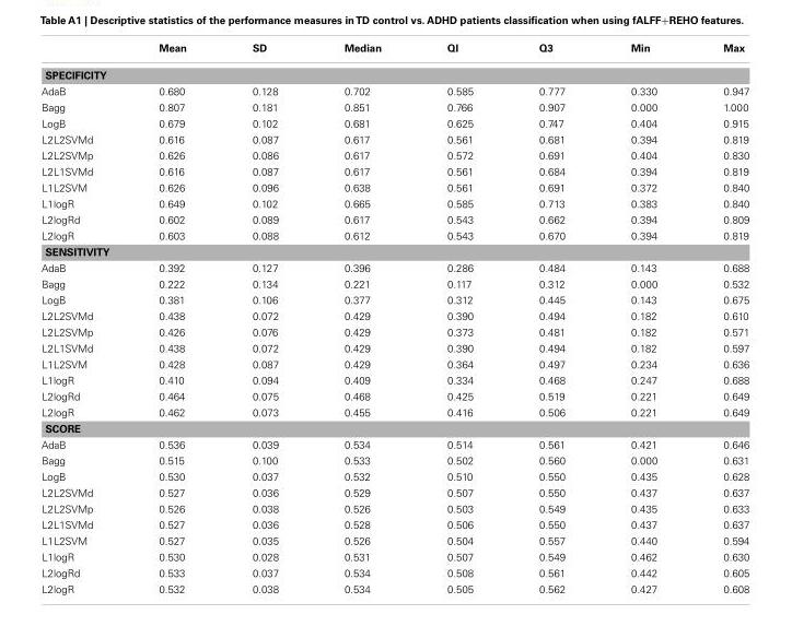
<table><thead><tr><td></td><td>Mean</td><td>SD</td><td>Median</td><td>Ql</td><td>Q3</td><td>Min</td><td>Max</td></tr></thead><tbody><tr><td colspan="8">SPECIFICITY</td></tr><tr><td>AdaB</td><td>0.680</td><td>0.128</td><td>0.702</td><td>0.585</td><td>0.777</td><td>0.330</td><td>0.947</td></tr><tr><td>Bagg</td><td>0.807</td><td>0.181</td><td>0.851</td><td>0.766</td><td>0.907</td><td>0.000</td><td>1.000</td></tr><tr><td>LogB</td><td>0.679</td><td>0.102</td><td>0.681</td><td>0.625</td><td>0.747</td><td>0.404</td><td>0.915</td></tr><tr><td>L2L2SVMd</td><td>0.616</td><td>0.087</td><td>0.617</td><td>0.561</td><td>0.681</td><td>0.394</td><td>0.819</td></tr><tr><td>L2L2SVMp</td><td>0.626</td><td>0.086</td><td>0.617</td><td>0.572</td><td>0.691</td><td>0.404</td><td>0.830</td></tr><tr><td>L2L1SVMd</td><td>0.616</td><td>0.087</td><td>0.617</td><td>0.561</td><td>0.684</td><td>0.394</td><td>0.819</td></tr><tr><td>L1L2SVM</td><td>0.626</td><td>0.096</td><td>0.638</td><td>0.561</td><td>0.691</td><td>0.372</td><td>0.840</td></tr><tr><td>L1logR</td><td>0.649</td><td>0.102</td><td>0.665</td><td>0.585</td><td>0.713</td><td>0.383</td><td>0.840</td></tr><tr><td>L2logRd</td><td>0.602</td><td>0.089</td><td>0.617</td><td>0.543</td><td>0.662</td><td>0.394</td><td>0.809</td></tr><tr><td>L2logR</td><td>0.603</td><td>0.088</td><td>0.612</td><td>0.543</td><td>0.670</td><td>0.394</td><td>0.819</td></tr><tr><td colspan="8">SENSITIVITY</td></tr><tr><td>AdaB</td><td>0.392</td><td>0.127</td><td>0.396</td><td>0.286</td><td>0.484</td><td>0.143</td><td>0.688</td></tr><tr><td>Bagg</td><td>0.222</td><td>0.134</td><td>0.221</td><td>0.117</td><td>0.312</td><td>0.000</td><td>0.532</td></tr><tr><td>LogB</td><td>0.381</td><td>0.106</td><td>0.377</td><td>0.312</td><td>0.445</td><td>0.143</td><td>0.675</td></tr><tr><td>L2L2SVMd</td><td>0.438</td><td>0.072</td><td>0.429</td><td>0.390</td><td>0.494</td><td>0.182</td><td>0.610</td></tr><tr><td>L2L2SVMp</td><td>0.426</td><td>0.076</td><td>0.429</td><td>0.373</td><td>0.481</td><td>0.182</td><td>0.571</td></tr><tr><td>L2L1SVMd</td><td>0.438</td><td>0.072</td><td>0.429</td><td>0.390</td><td>0.494</td><td>0.182</td><td>0.597</td></tr><tr><td>L1L2SVM</td><td>0.428</td><td>0.087</td><td>0.429</td><td>0.364</td><td>0.497</td><td>0.234</td><td>0.636</td></tr><tr><td>L1logR</td><td>0.410</td><td>0.094</td><td>0.409</td><td>0.334</td><td>0.468</td><td>0.247</td><td>0.688</td></tr><tr><td>L2logRd</td><td>0.464</td><td>0.075</td><td>0.468</td><td>0.425</td><td>0.519</td><td>0.221</td><td>0.649</td></tr><tr><td>L2logR</td><td>0.462</td><td>0.073</td><td>0.455</td><td>0.416</td><td>0.506</td><td>0.221</td><td>0.649</td></tr><tr><td colspan="8">SCORE</td></tr><tr><td>AdaB</td><td>0.536</td><td>0.039</td><td>0.534</td><td>0.514</td><td>0.561</td><td>0.421</td><td>0.646</td></tr><tr><td>Bagg</td><td>0.515</td><td>0.100</td><td>0.533</td><td>0.502</td><td>0.560</td><td>0.000</td><td>0.631</td></tr><tr><td>LogB</td><td>0.530</td><td>0.037</td><td>0.532</td><td>0.510</td><td>0.550</td><td>0.435</td><td>0.628</td></tr><tr><td>L2L2SVMd</td><td>0.527</td><td>0.036</td><td>0.529</td><td>0.507</td><td>0.550</td><td>0.437</td><td>0.637</td></tr><tr><td>L2L2SVMp</td><td>0.526</td><td>0.038</td><td>0.526</td><td>0.503</td><td>0.549</td><td>0.435</td><td>0.633</td></tr><tr><td>L2L1SVMd</td><td>0.527</td><td>0.036</td><td>0.528</td><td>0.506</td><td>0.550</td><td>0.437</td><td>0.637</td></tr><tr><td>L1L2SVM</td><td>0.527</td><td>0.035</td><td>0.526</td><td>0.504</td><td>0.557</td><td>0.440</td><td>0.594</td></tr><tr><td>L1logR</td><td>0.530</td><td>0.028</td><td>0.531</td><td>0.507</td><td>0.549</td><td>0.462</td><td>0.630</td></tr><tr><td>L2logRd</td><td>0.533</td><td>0.037</td><td>0.534</td><td>0.508</td><td>0.561</td><td>0.442</td><td>0.605</td></tr><tr><td>L2logR</td><td>0.532</td><td>0.038</td><td>0.534</td><td>0.505</td><td>0.562</td><td>0.427</td><td>0.608</td></tr></tbody></table>